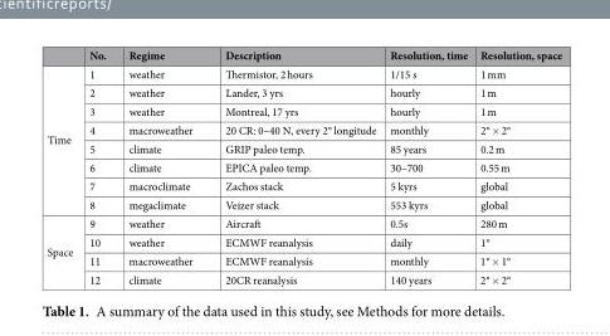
<table><thead><tr><td></td><td>No.</td><td>Regime</td><td>Description</td><td>Resolution, time</td><td>Resolution, space</td></tr></thead><tbody><tr><td rowspan="8">Time</td><td>1</td><td>weather</td><td>Thermistor, 2 hours</td><td>1/15 s</td><td>1 mm</td></tr><tr><td>2</td><td>weather</td><td>Lander, 3 yrs</td><td>hourly</td><td>1 m</td></tr><tr><td>3</td><td>weather</td><td>Montreal, 17 yrs</td><td>hourly</td><td>1 m</td></tr><tr><td>4</td><td>macroweather</td><td>20 CR: 0–40 N, every 2° longitude</td><td>monthly</td><td>2° × 2°</td></tr><tr><td>5</td><td>climate</td><td>GRIP paleo temp.</td><td>85 years</td><td>0.2 m</td></tr><tr><td>6</td><td>climate</td><td>EPICA paleo temp.</td><td>30–700</td><td>0.55 m</td></tr><tr><td>7</td><td>macroclimate</td><td>Zachos stack</td><td>5 kyrs</td><td>global</td></tr><tr><td>8</td><td>megaclimate</td><td>Veizer stack</td><td>553 kyrs</td><td>global</td></tr><tr><td rowspan="4">Space</td><td>9</td><td>weather</td><td>Aircraft</td><td>0.5s</td><td>280 m</td></tr><tr><td>10</td><td>weather</td><td>ECMWF reanalysis</td><td>daily</td><td>1°</td></tr><tr><td>11</td><td>macroweather</td><td>ECMWF reanalysis</td><td>monthly</td><td>1° × 1°</td></tr><tr><td>12</td><td>climate</td><td>20CR reanalysis</td><td>140 years</td><td>2° × 2°</td></tr></tbody></table>